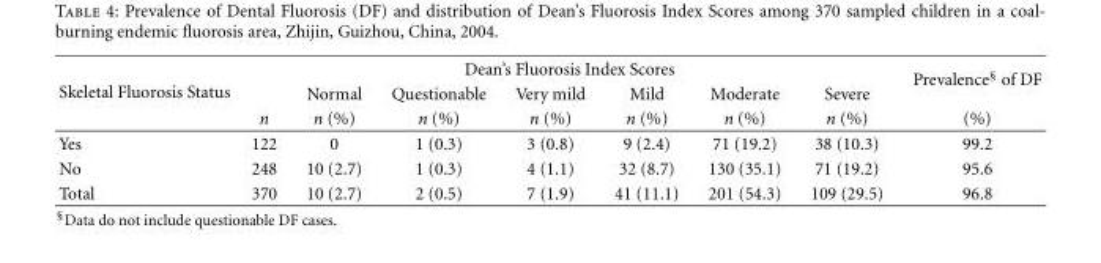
<table><thead><tr><td rowspan="3">Skeletal Fluorosis Status</td><td colspan="7">Dean’s Fluorosis Index Scores</td><td rowspan="3">Prevalence<sup>§</sup> of DF (%)</td></tr><tr><td rowspan="2">n</td><td rowspan="2">Normal n (%)</td><td rowspan="2">Questionable n (%)</td><td rowspan="2">Very mild n (%)</td><td rowspan="2">Mild n (%)</td><td rowspan="2">Moderate n (%)</td><td rowspan="2">Severe n (%)</td></tr><tr></tr></thead><tbody><tr><td>Yes</td><td>122</td><td>0</td><td>1 (0.3)</td><td>3 (0.8)</td><td>9 (2.4)</td><td>71 (19.2)</td><td>38 (10.3)</td><td>99.2</td></tr><tr><td>No</td><td>248</td><td>10 (2.7)</td><td>1 (0.3)</td><td>4 (1.1)</td><td>32 (8.7)</td><td>130 (35.1)</td><td>71 (19.2)</td><td>95.6</td></tr><tr><td>Total</td><td>370</td><td>10 (2.7)</td><td>2 (0.5)</td><td>7 (1.9)</td><td>41 (11.1)</td><td>201 (54.3)</td><td>109 (29.5)</td><td>96.8</td></tr></tbody></table>